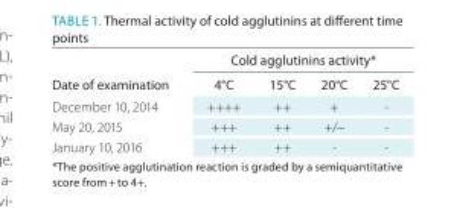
<table><thead><tr><td rowspan="2">Date of examination</td><td colspan="4">Cold agglutinins activity*</td></tr><tr><td>4°C</td><td>15°C</td><td>20°C</td><td>25°C</td></tr></thead><tbody><tr><td>December 10, 2014</td><td>++++</td><td>++</td><td>+</td><td>-</td></tr><tr><td>May 20, 2015</td><td>+++</td><td>++</td><td>+/−</td><td>-</td></tr><tr><td>January 10, 2016</td><td>+++</td><td>++</td><td>-</td><td>-</td></tr></tbody></table>